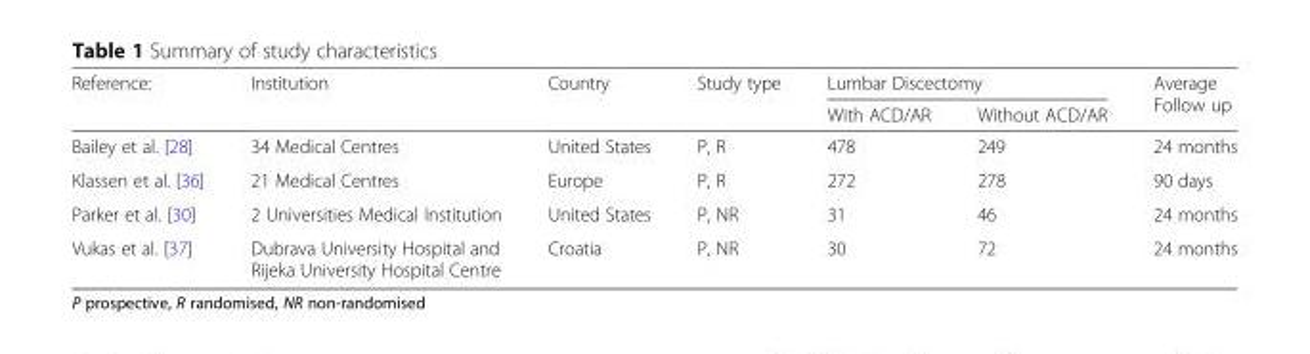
<table><thead><tr><td rowspan="2">Reference:</td><td rowspan="2">Institution</td><td rowspan="2">Country</td><td rowspan="2">Study type</td><td colspan="2">Lumbar Discectomy</td><td rowspan="2">Average Follow up</td></tr><tr><td>With ACD/AR</td><td>Without ACD/AR</td></tr></thead><tbody><tr><td>Bailey et al. [28]</td><td>34 Medical Centres</td><td>United States</td><td>P, R</td><td>478</td><td>249</td><td>24 months</td></tr><tr><td>Klassen et al. [36]</td><td>21 Medical Centres</td><td>Europe</td><td>P, R</td><td>272</td><td>278</td><td>90 days</td></tr><tr><td>Parker et al. [30]</td><td>2 Universities Medical Institution</td><td>United States</td><td>P, NR</td><td>31</td><td>46</td><td>24 months</td></tr><tr><td>Vukas et al. [37]</td><td>Dubrava University Hospital and Rijeka University Hospital Centre</td><td>Croatia</td><td>P, NR</td><td>30</td><td>72</td><td>24 months</td></tr></tbody></table>